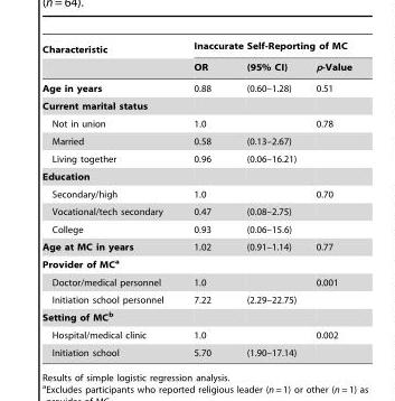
<table><thead><tr><td rowspan="2">Characteristic</td><td colspan="3">Inaccurate Self-Reporting of MC</td></tr><tr><td>OR</td><td>(95% CI)</td><td>p-Value</td></tr></thead><tbody><tr><td>Age in years</td><td>0.88</td><td>(0.60–1.28)</td><td>0.51</td></tr><tr><td colspan="4">Current marital status</td></tr><tr><td>Not in union</td><td>1.0</td><td></td><td>0.78</td></tr><tr><td>Married</td><td>0.58</td><td>(0.13–2.67)</td><td></td></tr><tr><td>Living together</td><td>0.96</td><td>(0.06–16.21)</td><td></td></tr><tr><td colspan="4">Education</td></tr><tr><td>Secondary/high</td><td>1.0</td><td></td><td>0.70</td></tr><tr><td>Vocational/tech secondary</td><td>0.47</td><td>(0.08–2.75)</td><td></td></tr><tr><td>College</td><td>0.93</td><td>(0.06–15.6)</td><td></td></tr><tr><td>Age at MC in years</td><td>1.02</td><td>(0.91–1.14)</td><td>0.77</td></tr><tr><td colspan="4">Provider of MCa</td></tr><tr><td>Doctor/medical personnel</td><td>1.0</td><td></td><td>0.001</td></tr><tr><td>Initiation school personnel</td><td>7.22</td><td>(2.29–22.75)</td><td></td></tr><tr><td colspan="4">Setting of MCb</td></tr><tr><td>Hospital/medical clinic</td><td>1.0</td><td></td><td>0.002</td></tr><tr><td>Initiation school</td><td>5.70</td><td>(1.90–17.14)</td><td></td></tr></tbody></table>